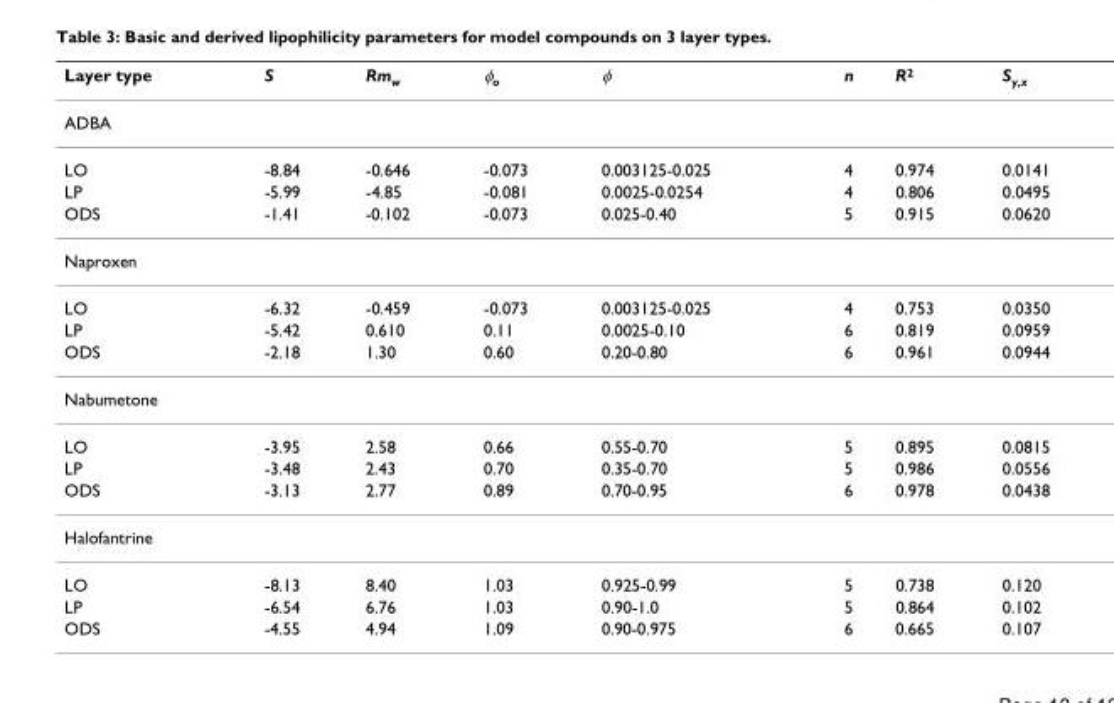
<table><thead><tr><td>Layer type</td><td>S</td><td>Rmw</td><td>φo</td><td>φ</td><td>n</td><td>R2</td><td>Sy,x</td></tr></thead><tbody><tr><td colspan="8">ADBA</td></tr><tr><td>LO</td><td>-8.84</td><td>-0.646</td><td>-0.073</td><td>0.003125-0.025</td><td>4</td><td>0.974</td><td>0.0141</td></tr><tr><td>LP</td><td>-5.99</td><td>-4.85</td><td>-0.081</td><td>0.0025-0.0254</td><td>4</td><td>0.806</td><td>0.0495</td></tr><tr><td>ODS</td><td>-1.41</td><td>-0.102</td><td>-0.073</td><td>0.025-0.40</td><td>5</td><td>0.915</td><td>0.0620</td></tr><tr><td colspan="8">Naproxen</td></tr><tr><td>LO</td><td>-6.32</td><td>-0.459</td><td>-0.073</td><td>0.003125-0.025</td><td>4</td><td>0.753</td><td>0.0350</td></tr><tr><td>LP</td><td>-5.42</td><td>0.610</td><td>0.11</td><td>0.0025-0.10</td><td>6</td><td>0.819</td><td>0.0959</td></tr><tr><td>ODS</td><td>-2.18</td><td>1.30</td><td>0.60</td><td>0.20-0.80</td><td>6</td><td>0.961</td><td>0.0944</td></tr><tr><td colspan="8">Nabumetone</td></tr><tr><td>LO</td><td>-3.95</td><td>2.58</td><td>0.66</td><td>0.55-0.70</td><td>5</td><td>0.895</td><td>0.0815</td></tr><tr><td>LP</td><td>-3.48</td><td>2.43</td><td>0.70</td><td>0.35-0.70</td><td>5</td><td>0.986</td><td>0.0556</td></tr><tr><td>ODS</td><td>-3.13</td><td>2.77</td><td>0.89</td><td>0.70-0.95</td><td>6</td><td>0.978</td><td>0.0438</td></tr><tr><td colspan="8">Halofantrine</td></tr><tr><td>LO</td><td>-8.13</td><td>8.40</td><td>1.03</td><td>0.925-0.99</td><td>5</td><td>0.738</td><td>0.120</td></tr><tr><td>LP</td><td>-6.54</td><td>6.76</td><td>1.03</td><td>0.90-1.0</td><td>5</td><td>0.864</td><td>0.102</td></tr><tr><td>ODS</td><td>-4.55</td><td>4.94</td><td>1.09</td><td>0.90-0.975</td><td>6</td><td>0.665</td><td>0.107</td></tr></tbody></table>